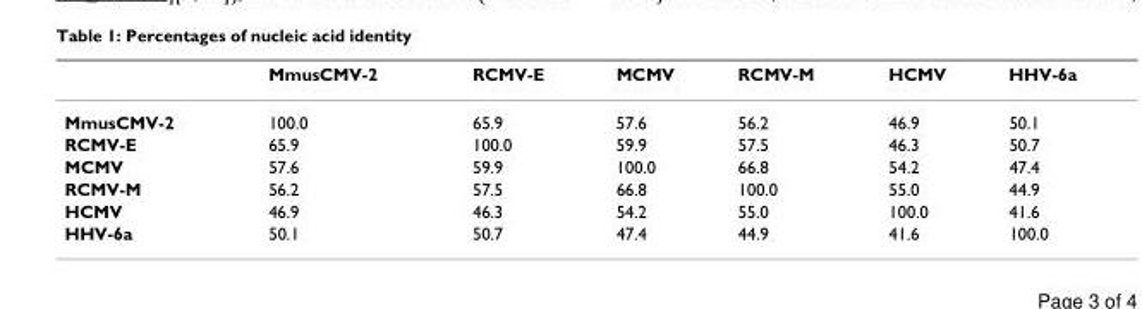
<table><thead><tr><td></td><td>MmusCMV-2</td><td>RCMV-E</td><td>MCMV</td><td>RCMV-M</td><td>HCMV</td><td>HHV-6a</td></tr></thead><tbody><tr><td>MmusCMV-2</td><td>100.0</td><td>65.9</td><td>57.6</td><td>56.2</td><td>46.9</td><td>50.1</td></tr><tr><td>RCMV-E</td><td>65.9</td><td>100.0</td><td>59.9</td><td>57.5</td><td>46.3</td><td>50.7</td></tr><tr><td>MCMV</td><td>57.6</td><td>59.9</td><td>100.0</td><td>66.8</td><td>54.2</td><td>47.4</td></tr><tr><td>RCMV-M</td><td>56.2</td><td>57.5</td><td>66.8</td><td>100.0</td><td>55.0</td><td>44.9</td></tr><tr><td>HCMV</td><td>46.9</td><td>46.3</td><td>54.2</td><td>55.0</td><td>100.0</td><td>41.6</td></tr><tr><td>HHV-6a</td><td>50.1</td><td>50.7</td><td>47.4</td><td>44.9</td><td>41.6</td><td>100.0</td></tr></tbody></table>